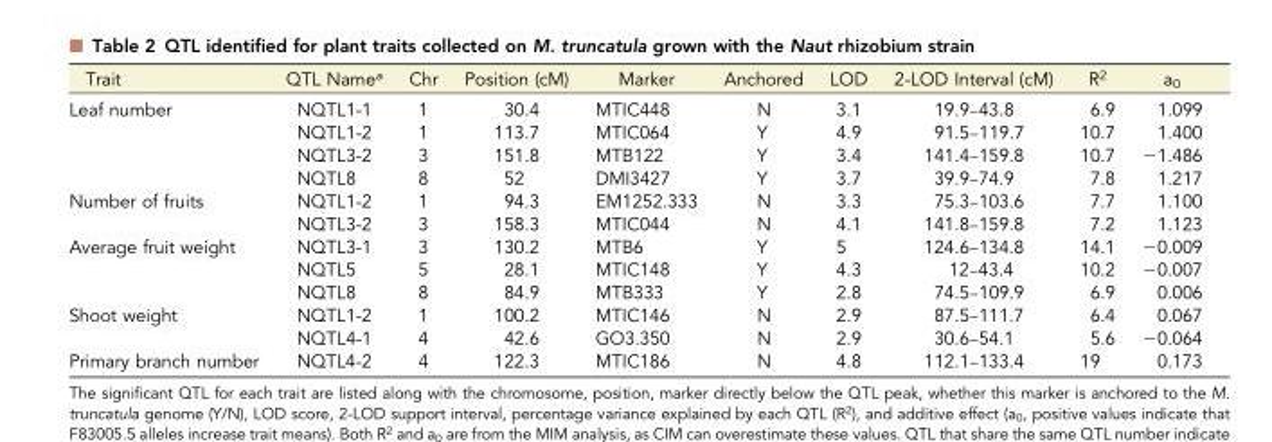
<table><thead><tr><td>Trait</td><td>QTL Name<sup>a</sup></td><td>Chr</td><td>Position (cM)</td><td>Marker</td><td>Anchored</td><td>LOD</td><td>2-LOD Interval (cM)</td><td>R<sup>2</sup></td><td>a<sub>0</sub></td></tr></thead><tbody><tr><td rowspan="4">Leaf number</td><td>NQTL1-1</td><td>1</td><td>30.4</td><td>MTIC448</td><td>N</td><td>3.1</td><td>19.9–43.8</td><td>6.9</td><td>1.099</td></tr><tr><td>NQTL1-2</td><td>1</td><td>113.7</td><td>MTIC064</td><td>Y</td><td>4.9</td><td>91.5–119.7</td><td>10.7</td><td>1.400</td></tr><tr><td>NQTL3-2</td><td>3</td><td>151.8</td><td>MTB122</td><td>Y</td><td>3.4</td><td>141.4–159.8</td><td>10.7</td><td>−1.486</td></tr><tr><td>NQTL8</td><td>8</td><td>52</td><td>DMI3427</td><td>Y</td><td>3.7</td><td>39.9–74.9</td><td>7.8</td><td>1.217</td></tr><tr><td rowspan="2">Number of fruits</td><td>NQTL1-2</td><td>1</td><td>94.3</td><td>EM1252.333</td><td>N</td><td>3.3</td><td>75.3–103.6</td><td>7.7</td><td>1.100</td></tr><tr><td>NQTL3-2</td><td>3</td><td>158.3</td><td>MTIC044</td><td>N</td><td>4.1</td><td>141.8–159.8</td><td>7.2</td><td>1.123</td></tr><tr><td rowspan="3">Average fruit weight</td><td>NQTL3-1</td><td>3</td><td>130.2</td><td>MTB6</td><td>Y</td><td>5</td><td>124.6–134.8</td><td>14.1</td><td>−0.009</td></tr><tr><td>NQTL5</td><td>5</td><td>28.1</td><td>MTIC148</td><td>Y</td><td>4.3</td><td>12–43.4</td><td>10.2</td><td>−0.007</td></tr><tr><td>NQTL8</td><td>8</td><td>84.9</td><td>MTB333</td><td>Y</td><td>2.8</td><td>74.5–109.9</td><td>6.9</td><td>0.006</td></tr><tr><td rowspan="2">Shoot weight</td><td>NQTL1-2</td><td>1</td><td>100.2</td><td>MTIC146</td><td>N</td><td>2.9</td><td>87.5–111.7</td><td>6.4</td><td>0.067</td></tr><tr><td>NQTL4-1</td><td>4</td><td>42.6</td><td>GO3.350</td><td>N</td><td>2.9</td><td>30.6–54.1</td><td>5.6</td><td>−0.064</td></tr><tr><td>Primary branch number</td><td>NQTL4-2</td><td>4</td><td>122.3</td><td>MTIC186</td><td>N</td><td>4.8</td><td>112.1–133.4</td><td>19</td><td>0.173</td></tr></tbody></table>